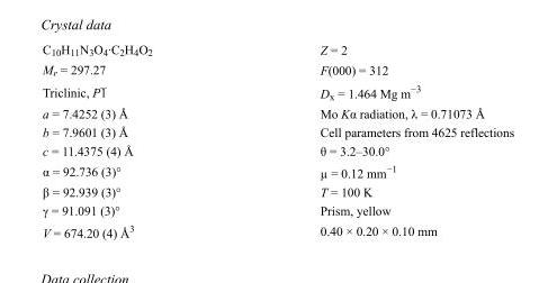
<table><tbody><tr><td>C<sub>10</sub>H<sub>11</sub>N<sub>3</sub>O<sub>4</sub>·C<sub>2</sub>H<sub>4</sub>O<sub>2</sub></td><td>Z = 2</td></tr><tr><td>M<sub>r</sub> = 297.27</td><td>F(000) = 312</td></tr><tr><td>Triclinic, P1</td><td>D<sub>x</sub> = 1.464 Mg m<sup>−3</sup></td></tr><tr><td>a = 7.4252 (3) Å</td><td>Mo Kα radiation, λ = 0.71073 Å</td></tr><tr><td>b = 7.9601 (3) Å</td><td>Cell parameters from 4625 reflections</td></tr><tr><td>c = 11.4375 (4) Å</td><td>θ = 3.2–30.0°</td></tr><tr><td>α = 92.736 (3)°</td><td>µ = 0.12 mm<sup>−1</sup></td></tr><tr><td>β = 92.939 (3)°</td><td>T = 100 K</td></tr><tr><td>γ = 91.091 (3)°</td><td>Prism, yellow</td></tr><tr><td>V = 674.20 (4) Å<sup>3</sup></td><td>0.40 × 0.20 × 0.10 mm</td></tr></tbody></table>